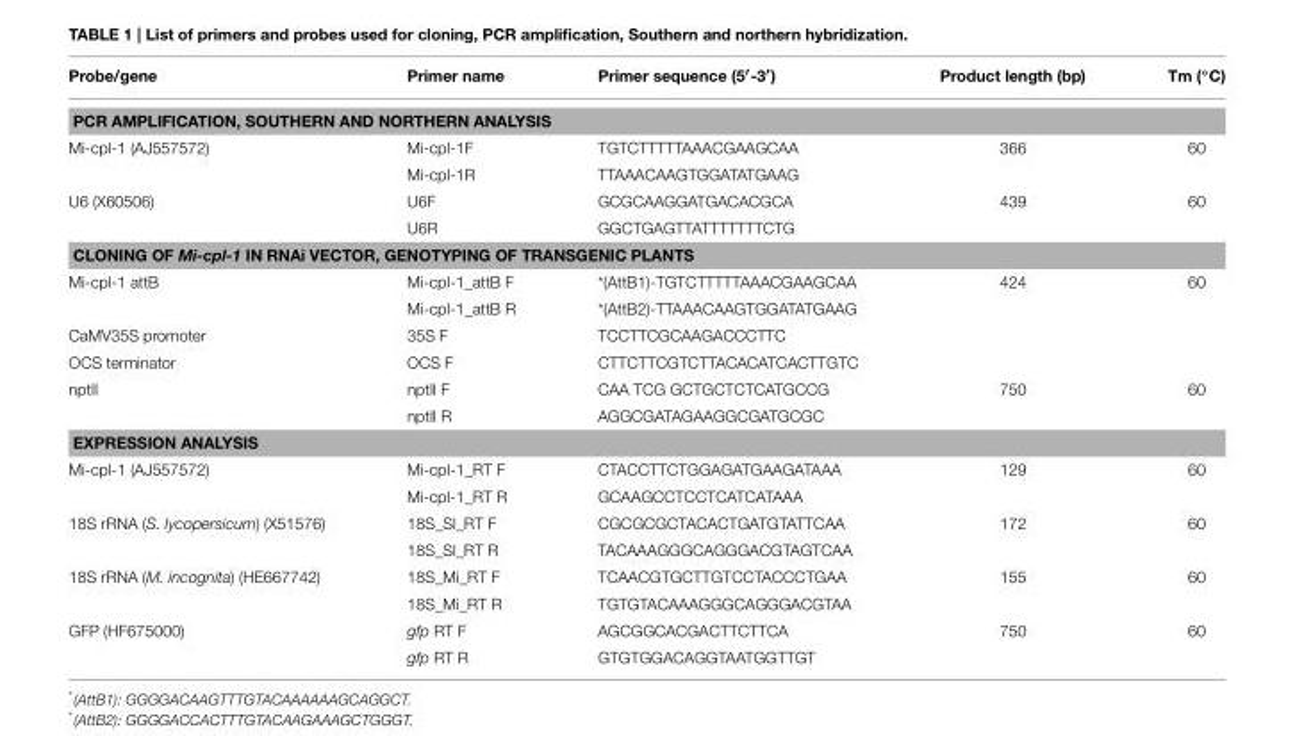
<table><thead><tr><td>Probe/gene</td><td>Primer name</td><td>Primer sequence (5′-3′)</td><td>Product length (bp)</td><td>Tm (◦C)</td></tr></thead><tbody><tr><td colspan="5">PCR AMPLIFICATION, SOUTHERN AND NORTHERN ANALYSIS</td></tr><tr><td rowspan="2">Mi-cpl-1 (AJ557572)</td><td>Mi-cpl-1F</td><td>TGTCTTTTTAAACGAAGCAA</td><td>366</td><td>60</td></tr><tr><td>Mi-cpl-1R</td><td>TTAAACAAGTGGATATGAAG</td><td></td><td></td></tr><tr><td rowspan="2">U6 (X60506)</td><td>U6F</td><td>GCGCAAGGATGACACGCA</td><td>439</td><td>60</td></tr><tr><td>U6R</td><td>GGCTGAGTTATTTTTTTCTG</td><td></td><td></td></tr><tr><td colspan="5">CLONING OF Mi-cpl-1 IN RNAi VECTOR, GENOTYPING OF TRANSGENIC PLANTS</td></tr><tr><td rowspan="2">Mi-cpl-1 attB</td><td>Mi-cpl-1_attB F</td><td>*(AttB1)-TGTCTTTTTAAACGAAGCAA</td><td>424</td><td>60</td></tr><tr><td>Mi-cpl-1_attB R</td><td>*(AttB2)-TTAAACAAGTGGATATGAAG</td><td></td><td></td></tr><tr><td>CaMV35S promoter</td><td>35S F</td><td>TCCTTCGCAAGACCCTTC</td><td></td><td></td></tr><tr><td>OCS terminator</td><td>OCS F</td><td>CTTCTTCGTCTTACACATCACTTGTC</td><td></td><td></td></tr><tr><td rowspan="2">nptII</td><td>nptII F</td><td>CAA TCG GCTGCTCTCATGCCG</td><td>750</td><td>60</td></tr><tr><td>nptII R</td><td>AGGCGATAGAAGGCGATGCGC</td><td></td><td></td></tr><tr><td colspan="5">EXPRESSION ANALYSIS</td></tr><tr><td rowspan="2">Mi-cpl-1 (AJ557572)</td><td>Mi-cpl-1_RT F</td><td>CTACCTTCTGGAGATGAAGATAAA</td><td>129</td><td>60</td></tr><tr><td>Mi-cpl-1_RT R</td><td>GCAAGCCTCCTCATCATAAA</td><td></td><td></td></tr><tr><td rowspan="2">18S rRNA (S. lycopersicum) (X51576)</td><td>18S_Sl_RT F</td><td>CGCGCGCTACACTGATGTATTCAA</td><td>172</td><td>60</td></tr><tr><td>18S_Sl_RT R</td><td>TACAAAGGGCAGGGACGTAGTCAA</td><td></td><td></td></tr><tr><td rowspan="2">18S rRNA (M. incognita) (HE667742)</td><td>18S_Mi_RT F</td><td>TCAACGTGCTTGTCCTACCCTGAA</td><td>155</td><td>60</td></tr><tr><td>18S_Mi_RT R</td><td>TGTGTACAAAGGGCAGGGACGTAA</td><td></td><td></td></tr><tr><td rowspan="2">GFP (HF675000)</td><td>gfp RT F</td><td>AGCGGCACGACTTCTTCA</td><td>750</td><td>60</td></tr><tr><td>gfp RT R</td><td>GTGTGGACAGGTAATGGTTGT</td><td></td><td></td></tr></tbody></table>